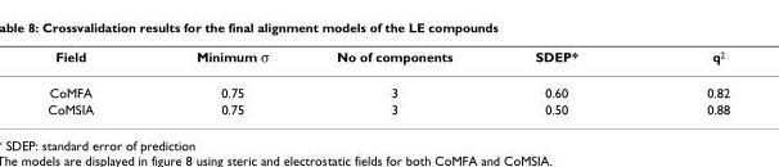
<table><thead><tr><td>Field</td><td>Minimum σ</td><td>No of components</td><td>SDEP*</td><td>q<sup>2</sup></td></tr></thead><tbody><tr><td>CoMFA</td><td>0.75</td><td>3</td><td>0.60</td><td>0.82</td></tr><tr><td>CoMSIA</td><td>0.75</td><td>3</td><td>0.50</td><td>0.88</td></tr></tbody></table>